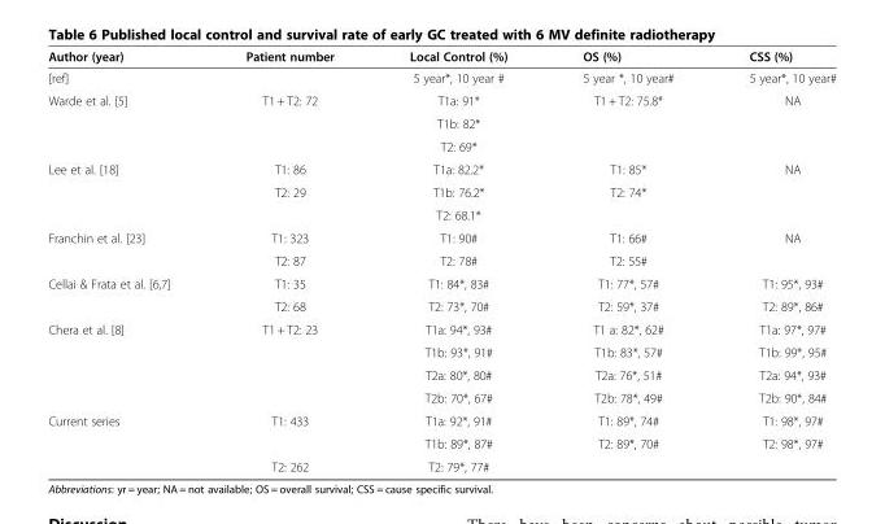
<table><thead><tr><td>Author (year)</td><td>Patient number</td><td>Local Control (%)</td><td>OS (%)</td><td>CSS (%)</td></tr></thead><tbody><tr><td>[ref]</td><td></td><td>5 year*, 10 year #</td><td>5 year *, 10 year#</td><td>5 year*, 10 year#</td></tr><tr><td rowspan="3">Warde et al. [5]</td><td>T1 + T2: 72</td><td>T1a: 91*</td><td>T1 + T2: 75.8*</td><td>NA</td></tr><tr><td></td><td>T1b: 82*</td><td></td><td></td></tr><tr><td></td><td>T2: 69*</td><td></td><td></td></tr><tr><td rowspan="3">Lee et al. [18]</td><td>T1: 86</td><td>T1a: 82.2*</td><td>T1: 85*</td><td>NA</td></tr><tr><td>T2: 29</td><td>T1b: 76.2*</td><td>T2: 74*</td><td></td></tr><tr><td></td><td>T2: 68.1*</td><td></td><td></td></tr><tr><td rowspan="2">Franchin et al. [23]</td><td>T1: 323</td><td>T1: 90#</td><td>T1: 66#</td><td>NA</td></tr><tr><td>T2: 87</td><td>T2: 78#</td><td>T2: 55#</td><td></td></tr><tr><td rowspan="2">Cellai &amp; Frata et al. [6,7]</td><td>T1: 35</td><td>T1: 84*, 83#</td><td>T1: 77*, 57#</td><td>T1: 95*, 93#</td></tr><tr><td>T2: 68</td><td>T2: 73*, 70#</td><td>T2: 59*, 37#</td><td>T2: 89*, 86#</td></tr><tr><td rowspan="4">Chera et al. [8]</td><td>T1 + T2: 23</td><td>T1a: 94*, 93#</td><td>T1 a: 82*, 62#</td><td>T1a: 97*, 97#</td></tr><tr><td></td><td>T1b: 93*, 91#</td><td>T1b: 83*, 57#</td><td>T1b: 99*, 95#</td></tr><tr><td></td><td>T2a: 80*, 80#</td><td>T2a: 76*, 51#</td><td>T2a: 94*, 93#</td></tr><tr><td></td><td>T2b: 70*, 67#</td><td>T2b: 78*, 49#</td><td>T2b: 90*, 84#</td></tr><tr><td rowspan="3">Current series</td><td>T1: 433</td><td>T1a: 92*, 91#</td><td>T1: 89*, 74#</td><td>T1: 98*, 97#</td></tr><tr><td></td><td>T1b: 89*, 87#</td><td>T2: 89*, 70#</td><td>T2: 98*, 97#</td></tr><tr><td>T2: 262</td><td>T2: 79*, 77#</td><td></td><td></td></tr></tbody></table>